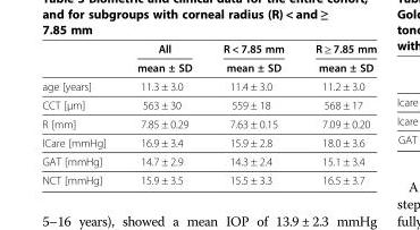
<table><thead><tr><td rowspan="2"></td><td rowspan="2">All mean ± SD</td><td rowspan="2">R &lt; 7.85 mm mean ± SD</td><td rowspan="2">R ≥ 7.85 mm mean ± SD</td></tr><tr></tr></thead><tbody><tr><td>age [years]</td><td>11.3 ± 3.0</td><td>11.4 ± 3.0</td><td>11.2 ± 3.0</td></tr><tr><td>CCT [μm]</td><td>563 ± 30</td><td>559 ± 18</td><td>568 ± 17</td></tr><tr><td>R [mm]</td><td>7.85 ± 0.29</td><td>7.63 ± 0.15</td><td>7.09 ± 0.20</td></tr><tr><td>ICare [mmHg]</td><td>16.9 ± 3.4</td><td>15.9 ± 2.8</td><td>18.0 ± 3.6</td></tr><tr><td>GAT [mmHg]</td><td>14.7 ± 2.9</td><td>14.3 ± 2.4</td><td>15.1 ± 3.4</td></tr><tr><td>NCT [mmHg]</td><td>15.9 ± 3.5</td><td>15.5 ± 3.3</td><td>16.5 ± 3.7</td></tr></tbody></table>